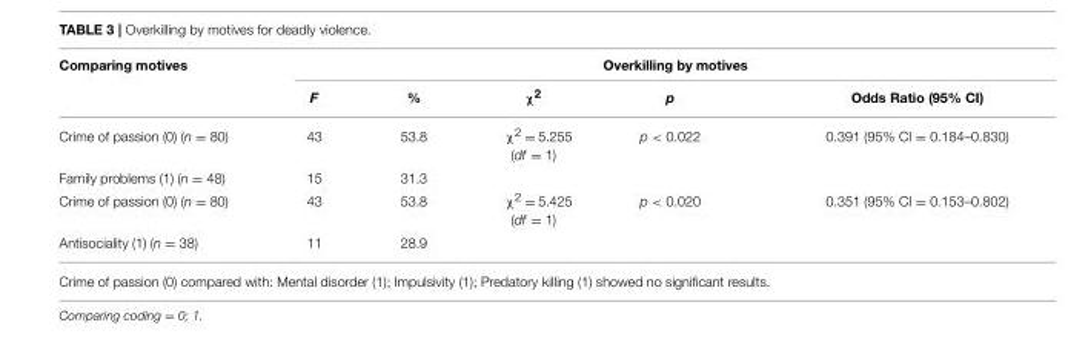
<table><thead><tr><td rowspan="2">Comparing motives</td><td colspan="5">Overkilling by motives</td></tr><tr><td>F</td><td>%</td><td>χ<sup>2</sup></td><td>p</td><td>Odds Ratio (95% CI)</td></tr></thead><tbody><tr><td>Crime of passion (0) (n = 80)</td><td>43</td><td>53.8</td><td>χ<sup>2</sup> = 5.255 (df = 1)</td><td>p &lt; 0.022</td><td>0.391 (95% CI = 0.184–0.830)</td></tr><tr><td>Family problems (1) (n = 48)</td><td>15</td><td>31.3</td><td></td><td></td><td></td></tr><tr><td>Crime of passion (0) (n = 80)</td><td>43</td><td>53.8</td><td>χ<sup>2</sup> = 5.425 (df = 1)</td><td>p &lt; 0.020</td><td>0.351 (95% CI = 0.153–0.802)</td></tr><tr><td>Antisociality (1) (n = 38)</td><td>11</td><td>28.9</td><td></td><td></td><td></td></tr><tr><td colspan="6">Crime of passion (0) compared with: Mental disorder (1); Impulsivity (1); Predatory killing (1) showed no significant results.</td></tr></tbody></table>